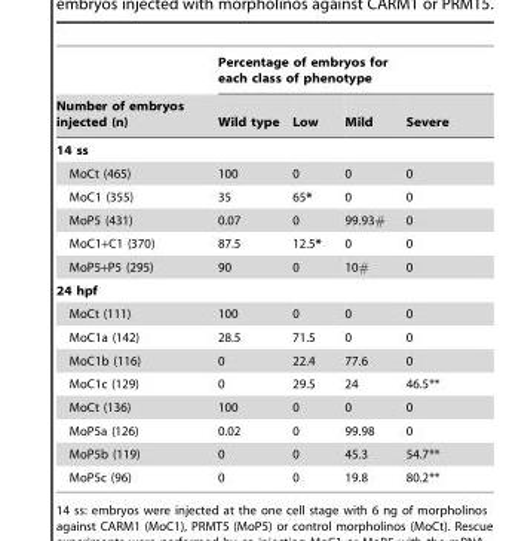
<table><thead><tr><td rowspan="2">Number of embryos injected (n)</td><td colspan="4">Percentage of embryos for each class of phenotype</td></tr><tr><td>Wild type</td><td>Low</td><td>Mild</td><td>Severe</td></tr></thead><tbody><tr><td colspan="5">14 ss</td></tr><tr><td>MoCt (465)</td><td>100</td><td>0</td><td>0</td><td>0</td></tr><tr><td>MoC1 (355)</td><td>35</td><td>65*</td><td>0</td><td>0</td></tr><tr><td>MoP5 (431)</td><td>0.07</td><td>0</td><td>99.93#</td><td>0</td></tr><tr><td>MoC1+C1 (370)</td><td>87.5</td><td>12.5*</td><td>0</td><td>0</td></tr><tr><td>MoP5+P5 (295)</td><td>90</td><td>0</td><td>10#</td><td>0</td></tr><tr><td colspan="5">24 hpf</td></tr><tr><td>MoCt (111)</td><td>100</td><td>0</td><td>0</td><td>0</td></tr><tr><td>MoC1a (142)</td><td>28.5</td><td>71.5</td><td>0</td><td>0</td></tr><tr><td>MoC1b (116)</td><td>0</td><td>22.4</td><td>77.6</td><td>0</td></tr><tr><td>MoC1c (129)</td><td>0</td><td>29.5</td><td>24</td><td>46.5**</td></tr><tr><td>MoCt (136)</td><td>100</td><td>0</td><td>0</td><td>0</td></tr><tr><td>MoP5a (126)</td><td>0.02</td><td>0</td><td>99.98</td><td>0</td></tr><tr><td>MoP5b (119)</td><td>0</td><td>0</td><td>45.3</td><td>54.7**</td></tr><tr><td>MoP5c (96)</td><td>0</td><td>0</td><td>19.8</td><td>80.2**</td></tr></tbody></table>